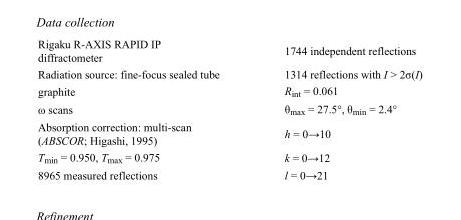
<table><tbody><tr><td>Rigaku R-AXIS RAPID IP diffractometer</td><td>1744 independent reflections</td></tr><tr><td>Radiation source: fine-focus sealed tube</td><td>1314 reflections with I &gt; 2σ(I)</td></tr><tr><td>graphite</td><td>R<sub>int</sub> = 0.061</td></tr><tr><td>ω scans</td><td>θ<sub>max</sub> = 27.5°, θ<sub>min</sub> = 2.4°</td></tr><tr><td>Absorption correction: multi-scan (ABSCOR; Higashi, 1995)</td><td>h = 0→10</td></tr><tr><td>T<sub>min</sub> = 0.950, T<sub>max</sub> = 0.975</td><td>k = 0→12</td></tr><tr><td>8965 measured reflections</td><td>l = 0→21</td></tr></tbody></table>